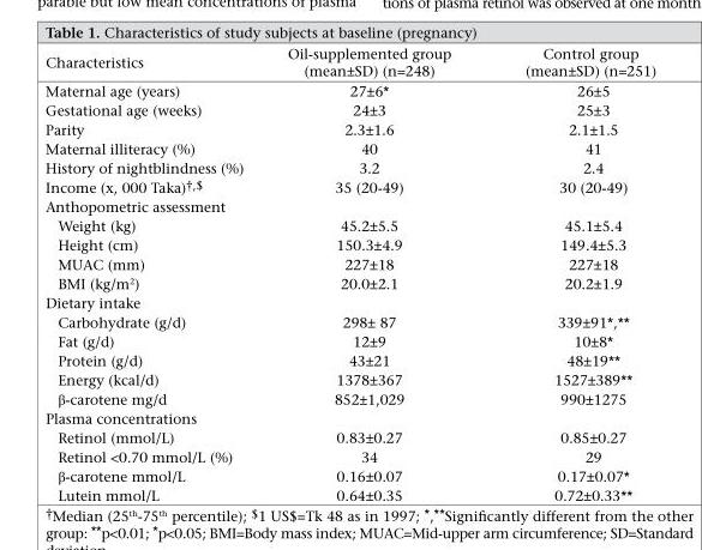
<table><thead><tr><td>Characteristics</td><td>Oil-supplemented group (mean±SD) (n=248)</td><td>Control group (mean±SD) (n=251)</td></tr></thead><tbody><tr><td>Maternal age (years)</td><td>27±6*</td><td>26±5</td></tr><tr><td>Gestational age (weeks)</td><td>24±3</td><td>25±3</td></tr><tr><td>Parity</td><td>2.3±1.6</td><td>2.1±1.5</td></tr><tr><td>Maternal illiteracy (%)</td><td>40</td><td>41</td></tr><tr><td>History of nightblindness (%)</td><td>3.2</td><td>2.4</td></tr><tr><td>Income (x, 000 Taka)†,$</td><td>35 (20-49)</td><td>30 (20-49)</td></tr><tr><td colspan="3">Anthopometric assessment</td></tr><tr><td>Weight (kg)</td><td>45.2±5.5</td><td>45.1±5.4</td></tr><tr><td>Height (cm)</td><td>150.3±4.9</td><td>149.4±5.3</td></tr><tr><td>MUAC (mm)</td><td>227±18</td><td>227±18</td></tr><tr><td>BMI (kg/m<sup>2</sup>)</td><td>20.0±2.1</td><td>20.2±1.9</td></tr><tr><td colspan="3">Dietary intake</td></tr><tr><td>Carbohydrate (g/d)</td><td>298± 87</td><td>339±91*,**</td></tr><tr><td>Fat (g/d)</td><td>12±9</td><td>10±8*</td></tr><tr><td>Protein (g/d)</td><td>43±21</td><td>48±19**</td></tr><tr><td>Energy (kcal/d)</td><td>1378±367</td><td>1527±389**</td></tr><tr><td>β-carotene mg/d</td><td>852±1,029</td><td>990±1275</td></tr><tr><td colspan="3">Plasma concentrations</td></tr><tr><td>Retinol (mmol/L)</td><td>0.83±0.27</td><td>0.85±0.27</td></tr><tr><td>Retinol &lt;0.70 mmol/L (%)</td><td>34</td><td>29</td></tr><tr><td>β-carotene mmol/L</td><td>0.16±0.07</td><td>0.17±0.07*</td></tr><tr><td>Lutein mmol/L</td><td>0.64±0.35</td><td>0.72±0.33**</td></tr></tbody></table>